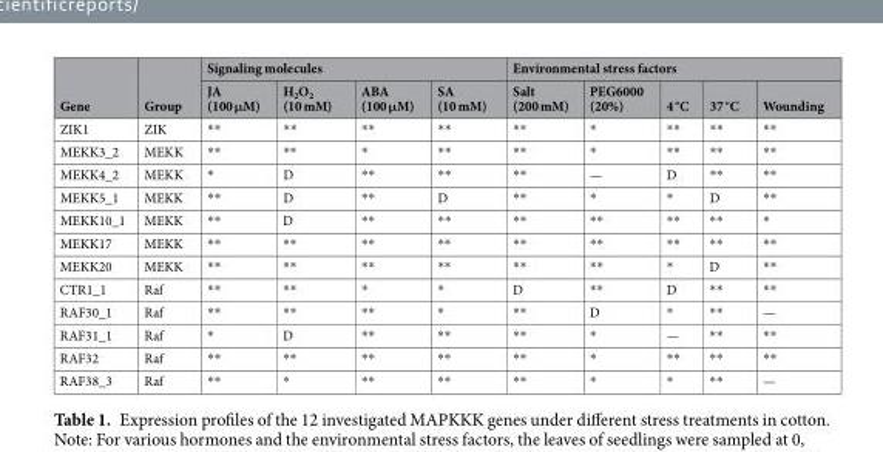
<table><thead><tr><td rowspan="2">Gene</td><td rowspan="2">Group</td><td colspan="4">Signaling molecules</td><td colspan="5">Environmental stress factors</td></tr><tr><td>JA (100 μM)</td><td>H<sub>2</sub>O<sub>2</sub> (10 mM)</td><td>ABA (100 μM)</td><td>SA (10 mM)</td><td>Salt (200 mM)</td><td>PEG6000 (20%)</td><td>4 °C</td><td>37 °C</td><td>Wounding</td></tr></thead><tbody><tr><td>ZIK1</td><td>ZIK</td><td>**</td><td>**</td><td>**</td><td>**</td><td>**</td><td>*</td><td>**</td><td>**</td><td>**</td></tr><tr><td>MEKK3_2</td><td>MEKK</td><td>**</td><td>**</td><td>*</td><td>**</td><td>**</td><td>*</td><td>**</td><td>**</td><td>**</td></tr><tr><td>MEKK4_2</td><td>MEKK</td><td>*</td><td>D</td><td>**</td><td>**</td><td>**</td><td>—</td><td>D</td><td>**</td><td>**</td></tr><tr><td>MEKK5_1</td><td>MEKK</td><td>**</td><td>D</td><td>**</td><td>D</td><td>**</td><td>*</td><td>*</td><td>D</td><td>**</td></tr><tr><td>MEKK10_1</td><td>MEKK</td><td>**</td><td>D</td><td>**</td><td>**</td><td>**</td><td>**</td><td>**</td><td>**</td><td>*</td></tr><tr><td>MEKK17</td><td>MEKK</td><td>**</td><td>**</td><td>**</td><td>**</td><td>**</td><td>**</td><td>**</td><td>**</td><td>**</td></tr><tr><td>MEKK20</td><td>MEKK</td><td>**</td><td>**</td><td>**</td><td>**</td><td>**</td><td>**</td><td>*</td><td>D</td><td>**</td></tr><tr><td>CTR1_1</td><td>Raf</td><td>**</td><td>**</td><td>*</td><td>*</td><td>D</td><td>**</td><td>D</td><td>**</td><td>**</td></tr><tr><td>RAF30_1</td><td>Raf</td><td>**</td><td>**</td><td>**</td><td>*</td><td>**</td><td>D</td><td>*</td><td>**</td><td>—</td></tr><tr><td>RAF31_1</td><td>Raf</td><td>*</td><td>D</td><td>**</td><td>**</td><td>**</td><td>*</td><td>—</td><td>**</td><td>**</td></tr><tr><td>RAF32</td><td>Raf</td><td>**</td><td>**</td><td>**</td><td>**</td><td>**</td><td>*</td><td>**</td><td>**</td><td>**</td></tr><tr><td>RAF38_3</td><td>Raf</td><td>**</td><td>*</td><td>**</td><td>**</td><td>**</td><td>*</td><td>*</td><td>**</td><td>—</td></tr></tbody></table>